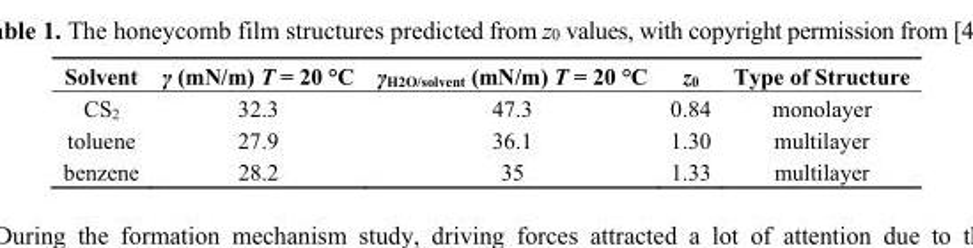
<table><thead><tr><td>Solvent</td><td>γ (mN/m) T = 20 °C</td><td>γ<sub>H2O/solvent</sub> (mN/m) T = 20 °C</td><td>z<sub>0</sub></td><td>Type of Structure</td></tr></thead><tbody><tr><td>CS<sub>2</sub></td><td>32.3</td><td>47.3</td><td>0.84</td><td>monolayer</td></tr><tr><td>toluene</td><td>27.9</td><td>36.1</td><td>1.30</td><td>multilayer</td></tr><tr><td>benzene</td><td>28.2</td><td>35</td><td>1.33</td><td>multilayer</td></tr></tbody></table>